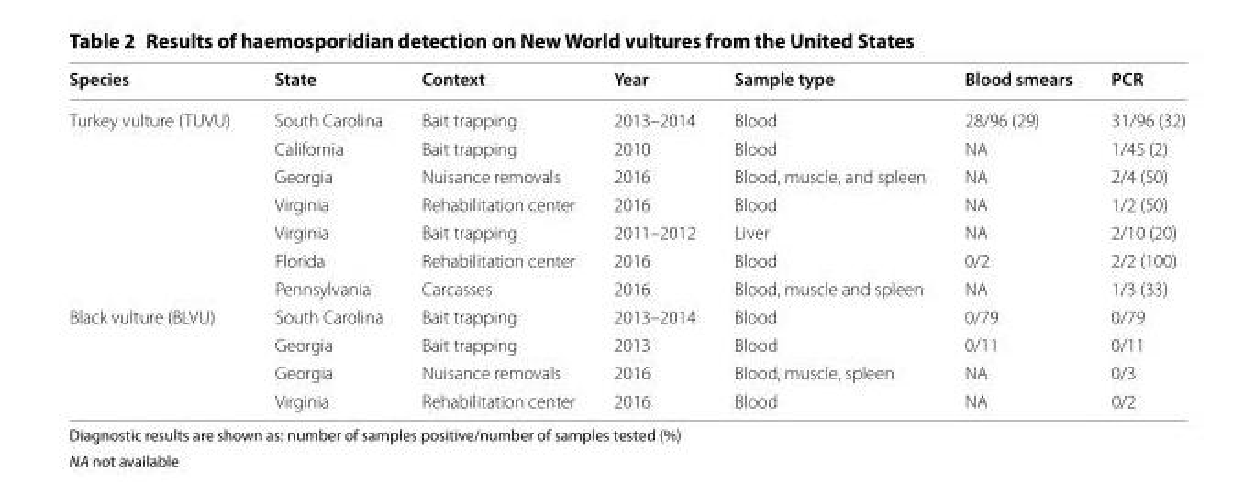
<table><thead><tr><td>Species</td><td>State</td><td>Context</td><td>Year</td><td>Sample type</td><td>Blood smears</td><td>PCR</td></tr></thead><tbody><tr><td rowspan="7">Turkey vulture (TUVU)</td><td>South Carolina</td><td>Bait trapping</td><td>2013–2014</td><td>Blood</td><td>28/96 (29)</td><td>31/96 (32)</td></tr><tr><td>California</td><td>Bait trapping</td><td>2010</td><td>Blood</td><td>NA</td><td>1/45 (2)</td></tr><tr><td>Georgia</td><td>Nuisance removals</td><td>2016</td><td>Blood, muscle, and spleen</td><td>NA</td><td>2/4 (50)</td></tr><tr><td>Virginia</td><td>Rehabilitation center</td><td>2016</td><td>Blood</td><td>NA</td><td>1/2 (50)</td></tr><tr><td>Virginia</td><td>Bait trapping</td><td>2011–2012</td><td>Liver</td><td>NA</td><td>2/10 (20)</td></tr><tr><td>Florida</td><td>Rehabilitation center</td><td>2016</td><td>Blood</td><td>0/2</td><td>2/2 (100)</td></tr><tr><td>Pennsylvania</td><td>Carcasses</td><td>2016</td><td>Blood, muscle and spleen</td><td>NA</td><td>1/3 (33)</td></tr><tr><td rowspan="4">Black vulture (BLVU)</td><td>South Carolina</td><td>Bait trapping</td><td>2013–2014</td><td>Blood</td><td>0/79</td><td>0/79</td></tr><tr><td>Georgia</td><td>Bait trapping</td><td>2013</td><td>Blood</td><td>0/11</td><td>0/11</td></tr><tr><td>Georgia</td><td>Nuisance removals</td><td>2016</td><td>Blood, muscle, spleen</td><td>NA</td><td>0/3</td></tr><tr><td>Virginia</td><td>Rehabilitation center</td><td>2016</td><td>Blood</td><td>NA</td><td>0/2</td></tr></tbody></table>